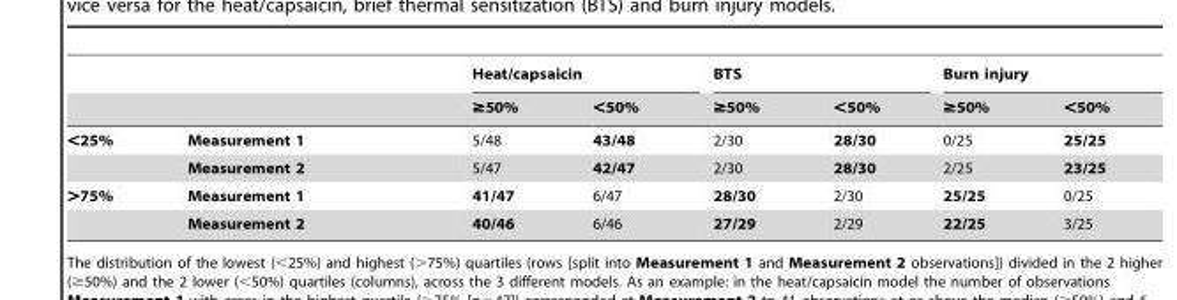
<table><thead><tr><td rowspan="2"></td><td rowspan="2"></td><td colspan="2">Heat/capsaicin</td><td colspan="2">BTS</td><td colspan="2">Burn injury</td></tr><tr><td>≥50%</td><td>&lt;50%</td><td>≥50%</td><td>&lt;50%</td><td>≥50%</td><td>&lt;50%</td></tr></thead><tbody><tr><td rowspan="2">&lt;25%</td><td>Measurement 1</td><td>5/48</td><td>43/48</td><td>2/30</td><td>28/30</td><td>0/25</td><td>25/25</td></tr><tr><td>Measurement 2</td><td>5/47</td><td>42/47</td><td>2/30</td><td>28/30</td><td>2/25</td><td>23/25</td></tr><tr><td rowspan="2">&gt;75%</td><td>Measurement 1</td><td>41/47</td><td>6/47</td><td>28/30</td><td>2/30</td><td>25/25</td><td>0/25</td></tr><tr><td>Measurement 2</td><td>40/46</td><td>6/46</td><td>27/29</td><td>2/29</td><td>22/25</td><td>3/25</td></tr></tbody></table>